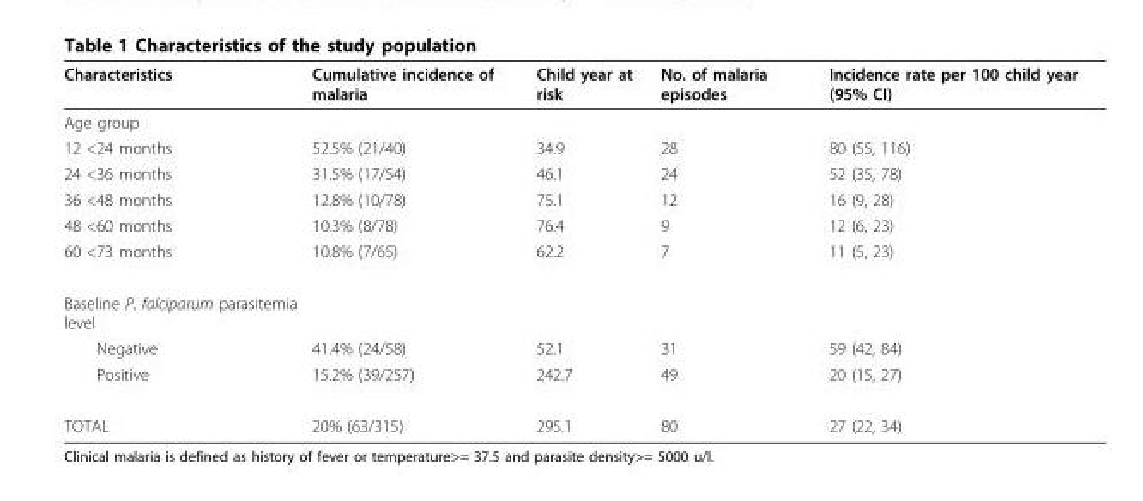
<table><thead><tr><td>Characteristics</td><td>Cumulative incidence of malaria</td><td>Child year at risk</td><td>No. of malaria episodes</td><td>Incidence rate per 100 child year (95% CI)</td></tr></thead><tbody><tr><td colspan="5">Age group</td></tr><tr><td>12 &lt;24 months</td><td>52.5% (21/40)</td><td>34.9</td><td>28</td><td>80 (55, 116)</td></tr><tr><td>24 &lt;36 months</td><td>31.5% (17/54)</td><td>46.1</td><td>24</td><td>52 (35, 78)</td></tr><tr><td>36 &lt;48 months</td><td>12.8% (10/78)</td><td>75.1</td><td>12</td><td>16 (9, 28)</td></tr><tr><td>48 &lt;60 months</td><td>10.3% (8/78)</td><td>76.4</td><td>9</td><td>12 (6, 23)</td></tr><tr><td>60 &lt;73 months</td><td>10.8% (7/65)</td><td>62.2</td><td>7</td><td>11 (5, 23)</td></tr><tr><td colspan="5">Baseline P. falciparum parasitemia level</td></tr><tr><td>Negative</td><td>41.4% (24/58)</td><td>52.1</td><td>31</td><td>59 (42, 84)</td></tr><tr><td>Positive</td><td>15.2% (39/257)</td><td>242.7</td><td>49</td><td>20 (15, 27)</td></tr><tr><td>TOTAL</td><td>20% (63/315)</td><td>295.1</td><td>80</td><td>27 (22, 34)</td></tr></tbody></table>